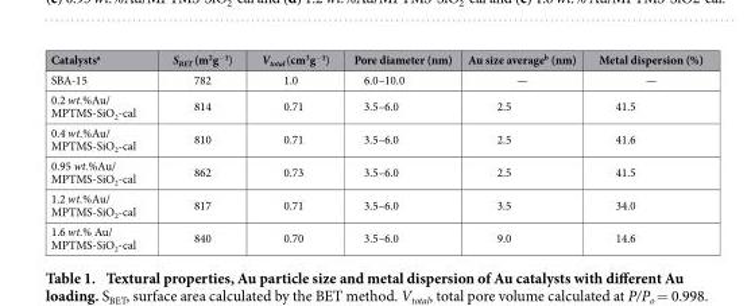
<table><thead><tr><td>Catalysts<sup>a</sup></td><td>S<sub>BET</sub> (m<sup>2</sup>g<sup>−1</sup>)</td><td>V<sub>total</sub> (cm<sup>3</sup>g<sup>−1</sup>)</td><td>Pore diameter (nm)</td><td>Au size average<sup>b</sup> (nm)</td><td>Metal dispersion (%)</td></tr></thead><tbody><tr><td>SBA-15</td><td>782</td><td>1.0</td><td>6.0–10.0</td><td>—</td><td>—</td></tr><tr><td>0.2 wt.%Au/ MPTMS-SiO<sub>2</sub>-cal</td><td>814</td><td>0.71</td><td>3.5–6.0</td><td>2.5</td><td>41.5</td></tr><tr><td>0.4 wt.%Au/ MPTMS-SiO<sub>2</sub>-cal</td><td>810</td><td>0.71</td><td>3.5–6.0</td><td>2.5</td><td>41.6</td></tr><tr><td>0.95 wt.%Au/ MPTMS-SiO<sub>2</sub>-cal</td><td>862</td><td>0.73</td><td>3.5–6.0</td><td>2.5</td><td>41.5</td></tr><tr><td>1.2 wt.%Au/ MPTMS-SiO<sub>2</sub>-cal</td><td>817</td><td>0.71</td><td>3.5–6.0</td><td>3.5</td><td>34.0</td></tr><tr><td>1.6 wt.% Au/ MPTMS-SiO<sub>2</sub>-cal</td><td>840</td><td>0.70</td><td>3.5–6.0</td><td>9.0</td><td>14.6</td></tr></tbody></table>